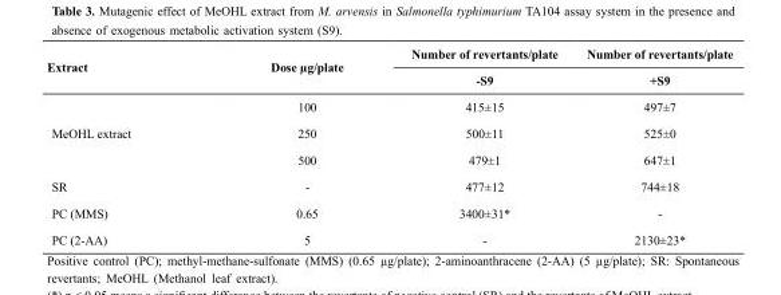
<table><thead><tr><td rowspan="2">Extract</td><td rowspan="2">Dose µg/plate</td><td rowspan="2">Number of revertants/plate -S9</td><td rowspan="2">Number of revertants/plate +S9</td></tr><tr></tr></thead><tbody><tr><td rowspan="3">MeOHL extract</td><td>100</td><td>415±15</td><td>497±7</td></tr><tr><td>250</td><td>500±11</td><td>525±0</td></tr><tr><td>500</td><td>479±1</td><td>647±1</td></tr><tr><td>SR</td><td>-</td><td>477±12</td><td>744±18</td></tr><tr><td>PC (MMS)</td><td>0.65</td><td>3400±31*</td><td>-</td></tr><tr><td>PC (2-AA)</td><td>5</td><td>-</td><td>2130±23*</td></tr></tbody></table>